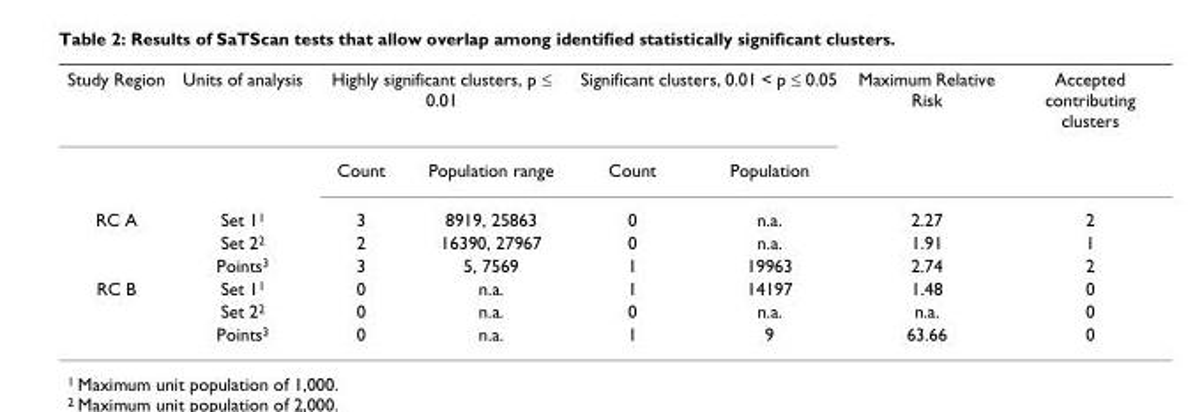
<table><tbody><tr><td rowspan="2">Study Region</td><td>Units of analysis</td><td colspan="2">Highly significant clusters, p ≤ 0.01</td><td colspan="2">Significant clusters, 0.01 &lt; p ≤ 0.05</td><td>Maximum Relative Risk</td><td>Accepted contributing clusters</td></tr><tr><td></td><td>Count</td><td>Population range</td><td>Count</td><td>Population</td><td></td><td></td></tr><tr><td rowspan="3">RC A</td><td>Set 1<sup>1</sup></td><td>3</td><td>8919, 25863</td><td>0</td><td>n.a.</td><td>2.27</td><td>2</td></tr><tr><td>Set 2<sup>2</sup></td><td>2</td><td>16390, 27967</td><td>0</td><td>n.a.</td><td>1.91</td><td>1</td></tr><tr><td>Points<sup>3</sup></td><td>3</td><td>5, 7569</td><td>1</td><td>19963</td><td>2.74</td><td>2</td></tr><tr><td rowspan="3">RC B</td><td>Set 1<sup>1</sup></td><td>0</td><td>n.a.</td><td>1</td><td>14197</td><td>1.48</td><td>0</td></tr><tr><td>Set 2<sup>2</sup></td><td>0</td><td>n.a.</td><td>0</td><td>n.a.</td><td>n.a.</td><td>0</td></tr><tr><td>Points<sup>3</sup></td><td>0</td><td>n.a.</td><td>1</td><td>9</td><td>63.66</td><td>0</td></tr></tbody></table>